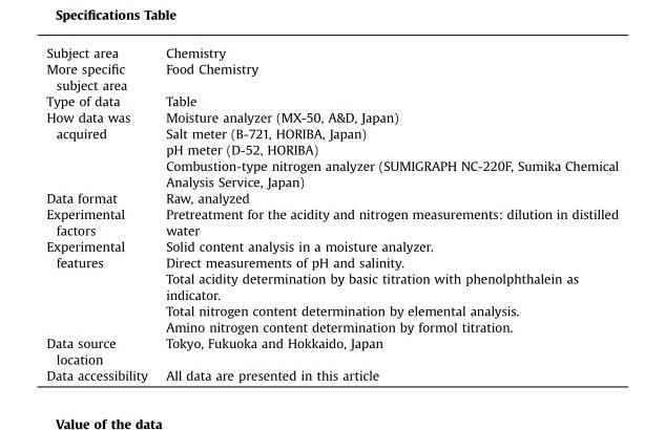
<table><tbody><tr><td>Subject area</td><td>Chemistry</td></tr><tr><td>More specific subject area</td><td>Food Chemistry</td></tr><tr><td>Type of data</td><td>Table</td></tr><tr><td rowspan="4">How data was acquired</td><td>Moisture analyzer (MX-50, A&amp;D, Japan)</td></tr><tr><td>Salt meter (B-721, HORIBA, Japan)</td></tr><tr><td>pH meter (D-52, HORIBA)</td></tr><tr><td>Combustion-type nitrogen analyzer (SUMIGRAPH NC-220F, Sumika Chemical Analysis Service, Japan)</td></tr><tr><td>Data format</td><td>Raw, analyzed</td></tr><tr><td>Experimental factors</td><td>Pretreatment for the acidity and nitrogen measurements: dilution in distilled water</td></tr><tr><td rowspan="5">Experimental features</td><td>Solid content analysis in a moisture analyzer.</td></tr><tr><td>Direct measurements of pH and salinity.</td></tr><tr><td>Total acidity determination by basic titration with phenolphthalein as indicator.</td></tr><tr><td>Total nitrogen content determination by elemental analysis.</td></tr><tr><td>Amino nitrogen content determination by formol titration.</td></tr><tr><td>Data source location</td><td>Tokyo, Fukuoka and Hokkaido, Japan</td></tr><tr><td>Data accessibility</td><td>All data are presented in this article</td></tr></tbody></table>